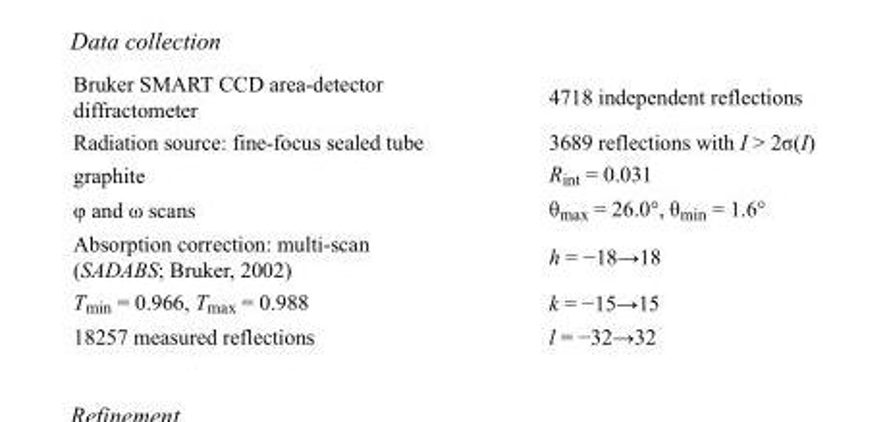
<table><tbody><tr><td>Bruker SMART CCD area-detector diffractometer</td><td>4718 independent reflections</td></tr><tr><td>Radiation source: fine-focus sealed tube</td><td>3689 reflections with I &gt; 2σ(I)</td></tr><tr><td>graphite</td><td>R<sub>int</sub> = 0.031</td></tr><tr><td>φ and ω scans</td><td>θ<sub>max</sub> = 26.0°, θ<sub>min</sub> = 1.6°</td></tr><tr><td>Absorption correction: multi-scan (SADABS; Bruker, 2002)</td><td>h = −18→18</td></tr><tr><td>T<sub>min</sub> = 0.966, T<sub>max</sub> = 0.988</td><td>k = −15→15</td></tr><tr><td>18257 measured reflections</td><td>l = −32→32</td></tr></tbody></table>